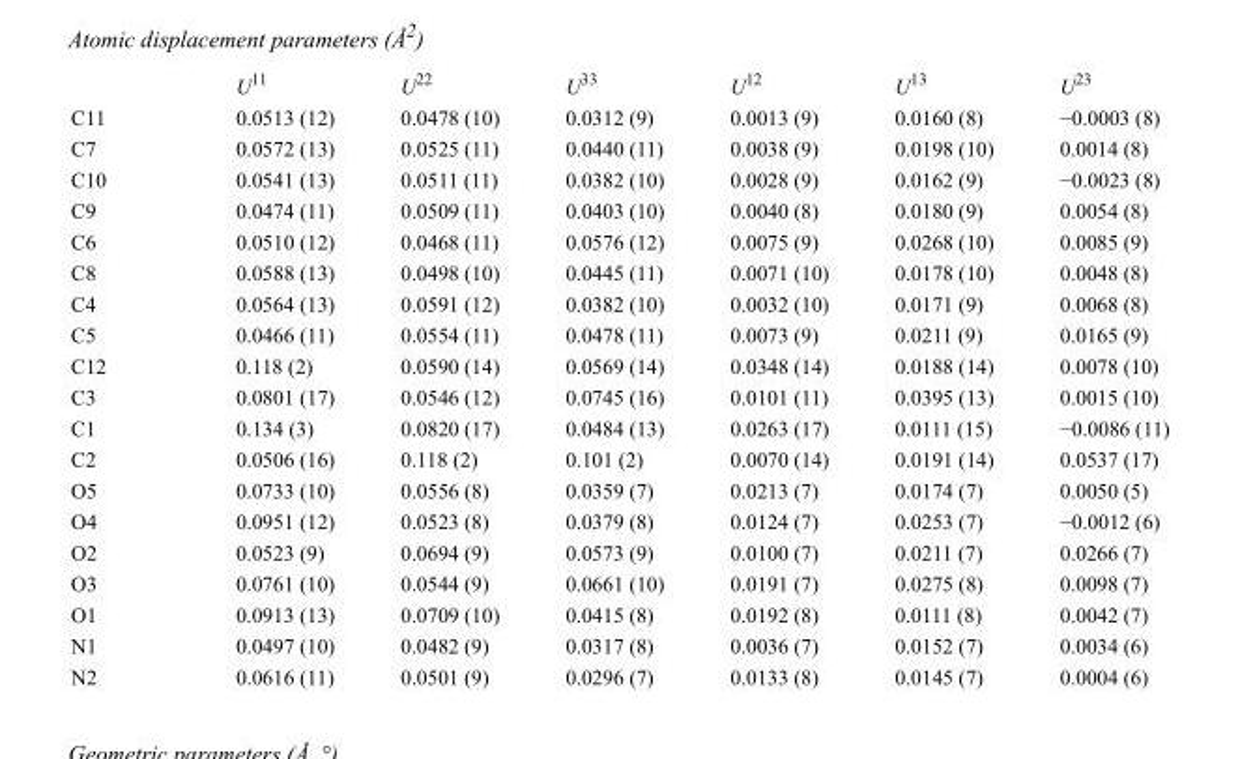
<table><thead><tr><td></td><td>U<sup>11</sup></td><td>U<sup>22</sup></td><td>U<sup>33</sup></td><td>U<sup>12</sup></td><td>U<sup>13</sup></td><td>U<sup>23</sup></td></tr></thead><tbody><tr><td>C11</td><td>0.0513 (12)</td><td>0.0478 (10)</td><td>0.0312 (9)</td><td>0.0013 (9)</td><td>0.0160 (8)</td><td>−0.0003 (8)</td></tr><tr><td>C7</td><td>0.0572 (13)</td><td>0.0525 (11)</td><td>0.0440 (11)</td><td>0.0038 (9)</td><td>0.0198 (10)</td><td>0.0014 (8)</td></tr><tr><td>C10</td><td>0.0541 (13)</td><td>0.0511 (11)</td><td>0.0382 (10)</td><td>0.0028 (9)</td><td>0.0162 (9)</td><td>−0.0023 (8)</td></tr><tr><td>C9</td><td>0.0474 (11)</td><td>0.0509 (11)</td><td>0.0403 (10)</td><td>0.0040 (8)</td><td>0.0180 (9)</td><td>0.0054 (8)</td></tr><tr><td>C6</td><td>0.0510 (12)</td><td>0.0468 (11)</td><td>0.0576 (12)</td><td>0.0075 (9)</td><td>0.0268 (10)</td><td>0.0085 (9)</td></tr><tr><td>C8</td><td>0.0588 (13)</td><td>0.0498 (10)</td><td>0.0445 (11)</td><td>0.0071 (10)</td><td>0.0178 (10)</td><td>0.0048 (8)</td></tr><tr><td>C4</td><td>0.0564 (13)</td><td>0.0591 (12)</td><td>0.0382 (10)</td><td>0.0032 (10)</td><td>0.0171 (9)</td><td>0.0068 (8)</td></tr><tr><td>C5</td><td>0.0466 (11)</td><td>0.0554 (11)</td><td>0.0478 (11)</td><td>0.0073 (9)</td><td>0.0211 (9)</td><td>0.0165 (9)</td></tr><tr><td>C12</td><td>0.118 (2)</td><td>0.0590 (14)</td><td>0.0569 (14)</td><td>0.0348 (14)</td><td>0.0188 (14)</td><td>0.0078 (10)</td></tr><tr><td>C3</td><td>0.0801 (17)</td><td>0.0546 (12)</td><td>0.0745 (16)</td><td>0.0101 (11)</td><td>0.0395 (13)</td><td>0.0015 (10)</td></tr><tr><td>C1</td><td>0.134 (3)</td><td>0.0820 (17)</td><td>0.0484 (13)</td><td>0.0263 (17)</td><td>0.0111 (15)</td><td>−0.0086 (11)</td></tr><tr><td>C2</td><td>0.0506 (16)</td><td>0.118 (2)</td><td>0.101 (2)</td><td>0.0070 (14)</td><td>0.0191 (14)</td><td>0.0537 (17)</td></tr><tr><td>O5</td><td>0.0733 (10)</td><td>0.0556 (8)</td><td>0.0359 (7)</td><td>0.0213 (7)</td><td>0.0174 (7)</td><td>0.0050 (5)</td></tr><tr><td>O4</td><td>0.0951 (12)</td><td>0.0523 (8)</td><td>0.0379 (8)</td><td>0.0124 (7)</td><td>0.0253 (7)</td><td>−0.0012 (6)</td></tr><tr><td>O2</td><td>0.0523 (9)</td><td>0.0694 (9)</td><td>0.0573 (9)</td><td>0.0100 (7)</td><td>0.0211 (7)</td><td>0.0266 (7)</td></tr><tr><td>O3</td><td>0.0761 (10)</td><td>0.0544 (9)</td><td>0.0661 (10)</td><td>0.0191 (7)</td><td>0.0275 (8)</td><td>0.0098 (7)</td></tr><tr><td>O1</td><td>0.0913 (13)</td><td>0.0709 (10)</td><td>0.0415 (8)</td><td>0.0192 (8)</td><td>0.0111 (8)</td><td>0.0042 (7)</td></tr><tr><td>N1</td><td>0.0497 (10)</td><td>0.0482 (9)</td><td>0.0317 (8)</td><td>0.0036 (7)</td><td>0.0152 (7)</td><td>0.0034 (6)</td></tr><tr><td>N2</td><td>0.0616 (11)</td><td>0.0501 (9)</td><td>0.0296 (7)</td><td>0.0133 (8)</td><td>0.0145 (7)</td><td>0.0004 (6)</td></tr></tbody></table>